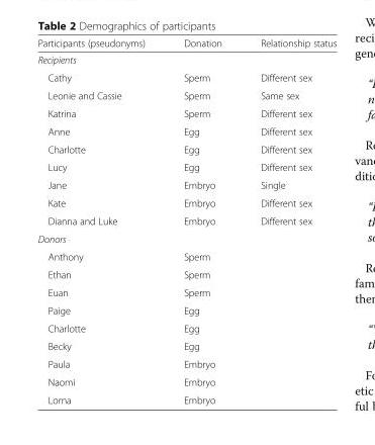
<table><thead><tr><td>Participants (pseudonyms)</td><td>Donation</td><td>Relationship status</td></tr></thead><tbody><tr><td colspan="3">Recipients</td></tr><tr><td>Cathy</td><td>Sperm</td><td>Different sex</td></tr><tr><td>Leonie and Cassie</td><td>Sperm</td><td>Same sex</td></tr><tr><td>Katrina</td><td>Sperm</td><td>Different sex</td></tr><tr><td>Anne</td><td>Egg</td><td>Different sex</td></tr><tr><td>Charlotte</td><td>Egg</td><td>Different sex</td></tr><tr><td>Lucy</td><td>Egg</td><td>Different sex</td></tr><tr><td>Jane</td><td>Embryo</td><td>Single</td></tr><tr><td>Kate</td><td>Embryo</td><td>Different sex</td></tr><tr><td>Dianna and Luke</td><td>Embryo</td><td>Different sex</td></tr><tr><td colspan="3">Donors</td></tr><tr><td>Anthony</td><td>Sperm</td><td></td></tr><tr><td>Ethan</td><td>Sperm</td><td></td></tr><tr><td>Euan</td><td>Sperm</td><td></td></tr><tr><td>Paige</td><td>Egg</td><td></td></tr><tr><td>Charlotte</td><td>Egg</td><td></td></tr><tr><td>Becky</td><td>Egg</td><td></td></tr><tr><td>Paula</td><td>Embryo</td><td></td></tr><tr><td>Naomi</td><td>Embryo</td><td></td></tr><tr><td>Lorna</td><td>Embryo</td><td></td></tr></tbody></table>